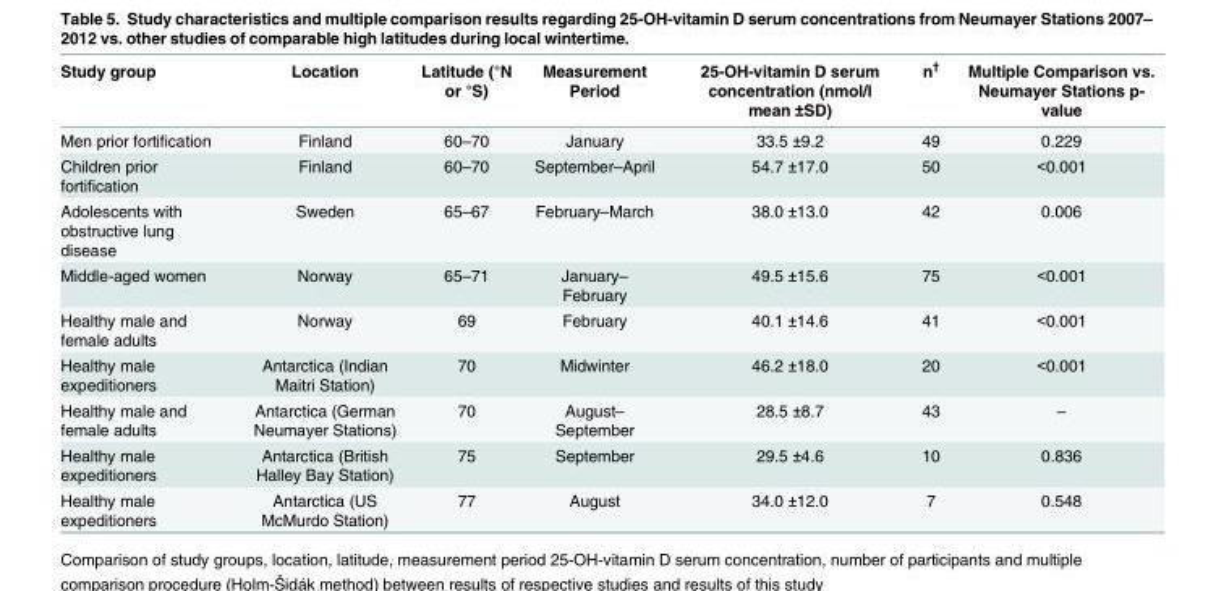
<table><thead><tr><td>Study group</td><td>Location</td><td>Latitude (°N or °S)</td><td>Measurement Period</td><td>25-OH-vitamin D serum concentration (nmol/l mean ±SD)</td><td>n<sup>†</sup></td><td>Multiple Comparison vs. Neumayer Stations p- value</td></tr></thead><tbody><tr><td>Men prior fortification</td><td>Finland</td><td>60–70</td><td>January</td><td>33.5 ±9.2</td><td>49</td><td>0.229</td></tr><tr><td>Children prior fortification</td><td>Finland</td><td>60–70</td><td>September–April</td><td>54.7 ±17.0</td><td>50</td><td>&lt;0.001</td></tr><tr><td>Adolescents with obstructive lung disease</td><td>Sweden</td><td>65–67</td><td>February–March</td><td>38.0 ±13.0</td><td>42</td><td>0.006</td></tr><tr><td>Middle-aged women</td><td>Norway</td><td>65–71</td><td>January– February</td><td>49.5 ±15.6</td><td>75</td><td>&lt;0.001</td></tr><tr><td>Healthy male and female adults</td><td>Norway</td><td>69</td><td>February</td><td>40.1 ±14.6</td><td>41</td><td>&lt;0.001</td></tr><tr><td>Healthy male expeditioners</td><td>Antarctica (Indian Maitri Station)</td><td>70</td><td>Midwinter</td><td>46.2 ±18.0</td><td>20</td><td>&lt;0.001</td></tr><tr><td>Healthy male and female adults</td><td>Antarctica (German Neumayer Stations)</td><td>70</td><td>August– September</td><td>28.5 ±8.7</td><td>43</td><td>–</td></tr><tr><td>Healthy male expeditioners</td><td>Antarctica (British Halley Bay Station)</td><td>75</td><td>September</td><td>29.5 ±4.6</td><td>10</td><td>0.836</td></tr><tr><td>Healthy male expeditioners</td><td>Antarctica (US McMurdo Station)</td><td>77</td><td>August</td><td>34.0 ±12.0</td><td>7</td><td>0.548</td></tr></tbody></table>